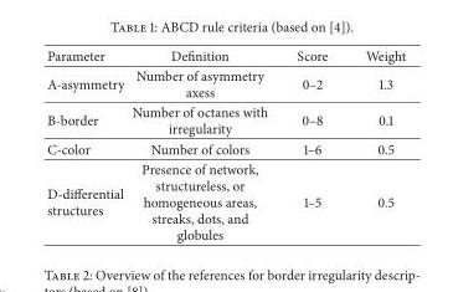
<table><thead><tr><td>Parameter</td><td>Definition</td><td>Score</td><td>Weight</td></tr></thead><tbody><tr><td>A-asymmetry</td><td>Number of asymmetry axess</td><td>0–2</td><td>1.3</td></tr><tr><td>B-border</td><td>Number of octanes with irregularity</td><td>0–8</td><td>0.1</td></tr><tr><td>C-color</td><td>Number of colors</td><td>1–6</td><td>0.5</td></tr><tr><td>D-differential structures</td><td>Presence of network, structureless, or homogeneous areas, streaks, dots, and globules</td><td>1–5</td><td>0.5</td></tr></tbody></table>